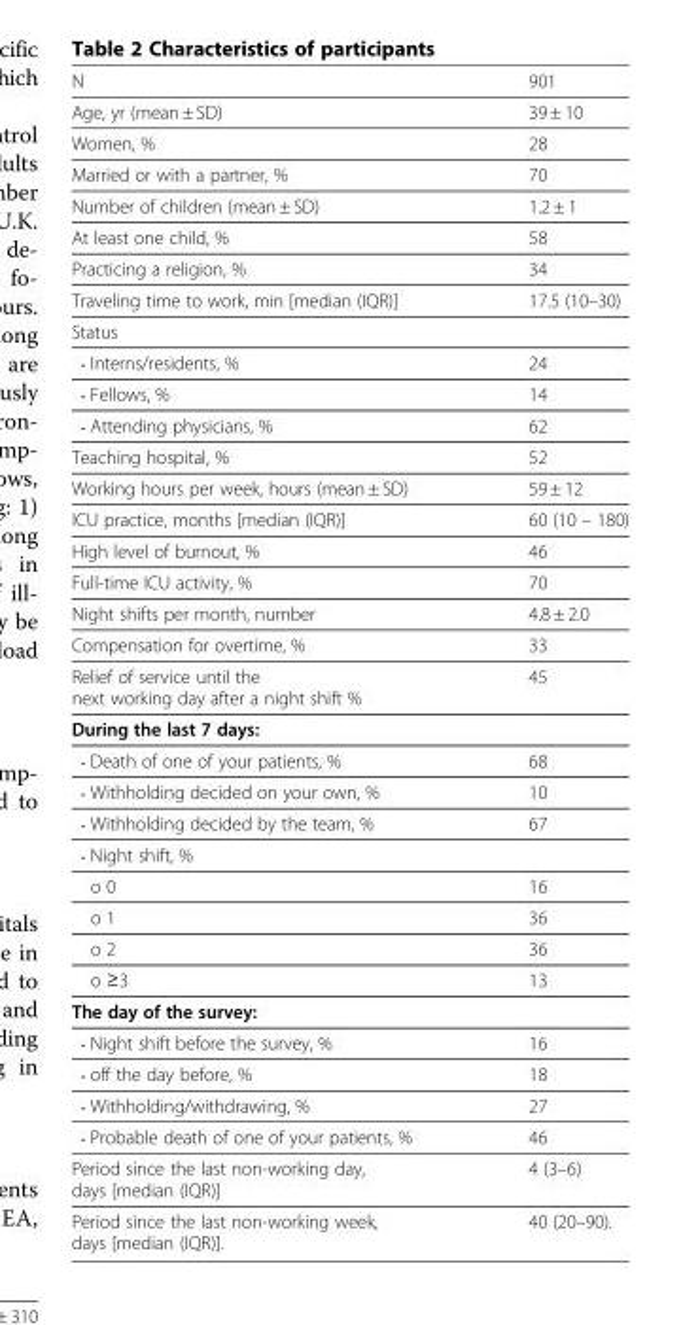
<table><thead><tr><td>N</td><td>901</td></tr></thead><tbody><tr><td>Age, yr (mean ± SD)</td><td>39 ± 10</td></tr><tr><td>Women, %</td><td>28</td></tr><tr><td>Married or with a partner, %</td><td>70</td></tr><tr><td>Number of children (mean ± SD)</td><td>1.2 ± 1</td></tr><tr><td>At least one child, %</td><td>58</td></tr><tr><td>Practicing a religion, %</td><td>34</td></tr><tr><td>Traveling time to work, min [median (IQR)]</td><td>17.5 (10–30)</td></tr><tr><td colspan="2">Status</td></tr><tr><td>• Interns/residents, %</td><td>24</td></tr><tr><td>• Fellows, %</td><td>14</td></tr><tr><td>• Attending physicians, %</td><td>62</td></tr><tr><td>Teaching hospital, %</td><td>52</td></tr><tr><td>Working hours per week, hours (mean ± SD)</td><td>59 ± 12</td></tr><tr><td>ICU practice, months [median (IQR)]</td><td>60 (10 – 180)</td></tr><tr><td>High level of burnout, %</td><td>46</td></tr><tr><td>Full-time ICU activity, %</td><td>70</td></tr><tr><td>Night shifts per month, number</td><td>4.8 ± 2.0</td></tr><tr><td>Compensation for overtime, %</td><td>33</td></tr><tr><td>Relief of service until the next working day after a night shift %</td><td>45</td></tr><tr><td colspan="2">During the last 7 days:</td></tr><tr><td>• Death of one of your patients, %</td><td>68</td></tr><tr><td>• Withholding decided on your own, %</td><td>10</td></tr><tr><td>• Withholding decided by the team, %</td><td>67</td></tr><tr><td colspan="2">• Night shift, %</td></tr><tr><td>o 0</td><td>16</td></tr><tr><td>o 1</td><td>36</td></tr><tr><td>o 2</td><td>36</td></tr><tr><td>o ≥3</td><td>13</td></tr><tr><td colspan="2">The day of the survey:</td></tr><tr><td>• Night shift before the survey, %</td><td>16</td></tr><tr><td>• off the day before, %</td><td>18</td></tr><tr><td>• Withholding/withdrawing, %</td><td>27</td></tr><tr><td>• Probable death of one of your patients, %</td><td>46</td></tr><tr><td>Period since the last non-working day, days [median (IQR)]</td><td>4 (3–6)</td></tr><tr><td>Period since the last non-working week, days [median (IQR)].</td><td>40 (20–90).</td></tr></tbody></table>